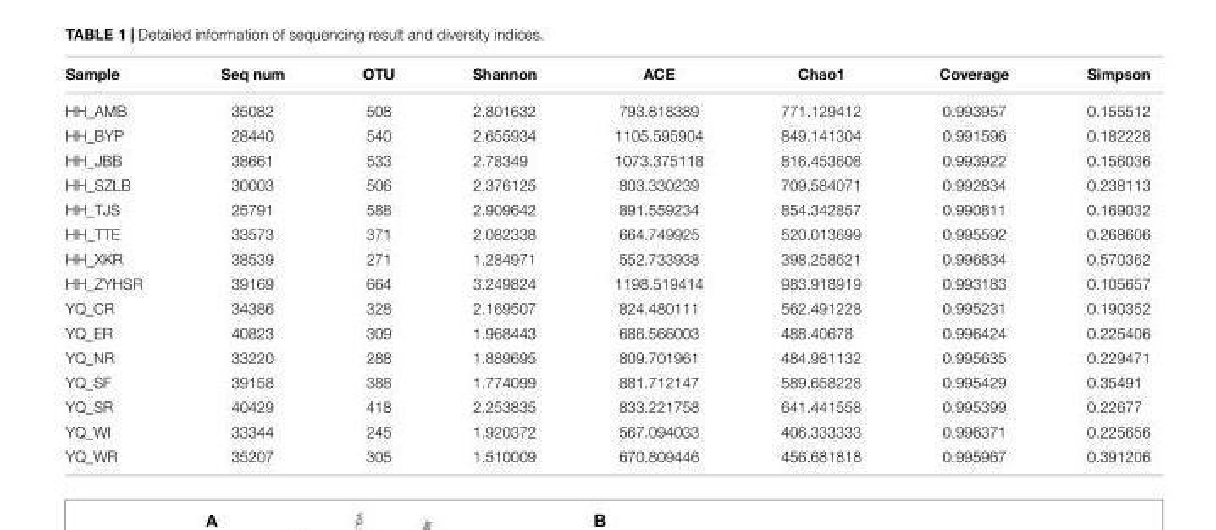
<table><thead><tr><td>Sample</td><td>Seq num</td><td>OTU</td><td>Shannon</td><td>ACE</td><td>Chao1</td><td>Coverage</td><td>Simpson</td></tr></thead><tbody><tr><td>HH_AMB</td><td>35082</td><td>508</td><td>2.801632</td><td>793.818389</td><td>771.129412</td><td>0.993957</td><td>0.155512</td></tr><tr><td>HH_BYP</td><td>28440</td><td>540</td><td>2.655934</td><td>1105.595904</td><td>849.141304</td><td>0.991596</td><td>0.182228</td></tr><tr><td>HH_JBB</td><td>38661</td><td>533</td><td>2.78349</td><td>1073.375118</td><td>816.453608</td><td>0.993922</td><td>0.156036</td></tr><tr><td>HH_SZLB</td><td>30003</td><td>506</td><td>2.376125</td><td>803.330239</td><td>709.584071</td><td>0.992834</td><td>0.238113</td></tr><tr><td>HH_TJS</td><td>25791</td><td>588</td><td>2.909642</td><td>891.559234</td><td>854.342857</td><td>0.990811</td><td>0.169032</td></tr><tr><td>HH_TTE</td><td>33573</td><td>371</td><td>2.082338</td><td>664.749925</td><td>520.013699</td><td>0.995592</td><td>0.268606</td></tr><tr><td>HH_XKR</td><td>38539</td><td>271</td><td>1.284971</td><td>552.733938</td><td>398.258621</td><td>0.996834</td><td>0.570362</td></tr><tr><td>HH_ZYHSR</td><td>39169</td><td>664</td><td>3.249824</td><td>1198.519414</td><td>983.918919</td><td>0.993183</td><td>0.105657</td></tr><tr><td>YQ_CR</td><td>34386</td><td>328</td><td>2.169507</td><td>824.480111</td><td>562.491228</td><td>0.995231</td><td>0.190352</td></tr><tr><td>YQ_ER</td><td>40823</td><td>309</td><td>1.968443</td><td>686.566003</td><td>488.40678</td><td>0.996424</td><td>0.225406</td></tr><tr><td>YQ_NR</td><td>33220</td><td>288</td><td>1.889695</td><td>809.701961</td><td>484.981132</td><td>0.995635</td><td>0.229471</td></tr><tr><td>YQ_SF</td><td>39158</td><td>388</td><td>1.774099</td><td>881.712147</td><td>589.658228</td><td>0.995429</td><td>0.35491</td></tr><tr><td>YQ_SR</td><td>40429</td><td>418</td><td>2.253835</td><td>833.221758</td><td>641.441558</td><td>0.995399</td><td>0.22677</td></tr><tr><td>YQ_WI</td><td>33344</td><td>245</td><td>1.920372</td><td>567.094033</td><td>406.333333</td><td>0.996371</td><td>0.225656</td></tr><tr><td>YQ_WR</td><td>35207</td><td>305</td><td>1.510009</td><td>670.809446</td><td>456.681818</td><td>0.995967</td><td>0.391206</td></tr></tbody></table>